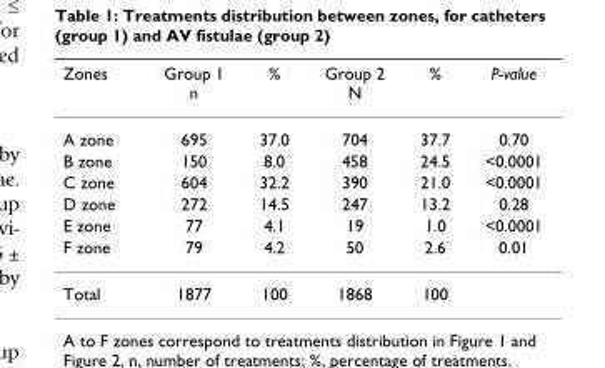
<table><thead><tr><td>Zones</td><td>Group 1 n</td><td>%</td><td>Group 2 N</td><td>%</td><td>P-value</td></tr></thead><tbody><tr><td>A zone</td><td>695</td><td>37.0</td><td>704</td><td>37.7</td><td>0.70</td></tr><tr><td>B zone</td><td>150</td><td>8.0</td><td>458</td><td>24.5</td><td>&lt;0.0001</td></tr><tr><td>C zone</td><td>604</td><td>32.2</td><td>390</td><td>21.0</td><td>&lt;0.0001</td></tr><tr><td>D zone</td><td>272</td><td>14.5</td><td>247</td><td>13.2</td><td>0.28</td></tr><tr><td>E zone</td><td>77</td><td>4.1</td><td>19</td><td>1.0</td><td>&lt;0.0001</td></tr><tr><td>F zone</td><td>79</td><td>4.2</td><td>50</td><td>2.6</td><td>0.01</td></tr><tr><td>Total</td><td>1877</td><td>100</td><td>1868</td><td>100</td><td></td></tr></tbody></table>